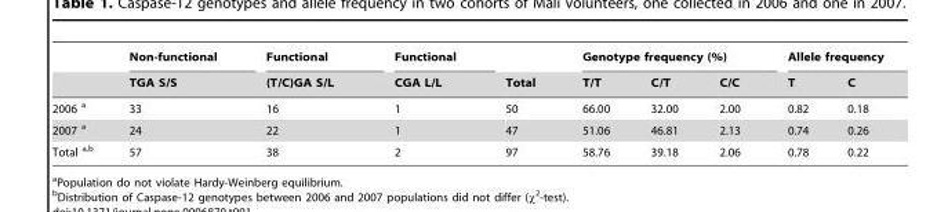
<table><thead><tr><td rowspan="2"></td><td rowspan="2">Non-functional TGA S/S</td><td rowspan="2">Functional (T/C)GA S/L</td><td rowspan="2">Functional CGA L/L</td><td rowspan="2">Total</td><td colspan="3">Genotype frequency (%)</td><td colspan="2">Allele frequency</td></tr><tr><td>T/T</td><td>C/T</td><td>C/C</td><td>T</td><td>C</td></tr></thead><tbody><tr><td>2006 a</td><td>33</td><td>16</td><td>1</td><td>50</td><td>66.00</td><td>32.00</td><td>2.00</td><td>0.82</td><td>0.18</td></tr><tr><td>2007 a</td><td>24</td><td>22</td><td>1</td><td>47</td><td>51.06</td><td>46.81</td><td>2.13</td><td>0.74</td><td>0.26</td></tr><tr><td>Total a,b</td><td>57</td><td>38</td><td>2</td><td>97</td><td>58.76</td><td>39.18</td><td>2.06</td><td>0.78</td><td>0.22</td></tr></tbody></table>